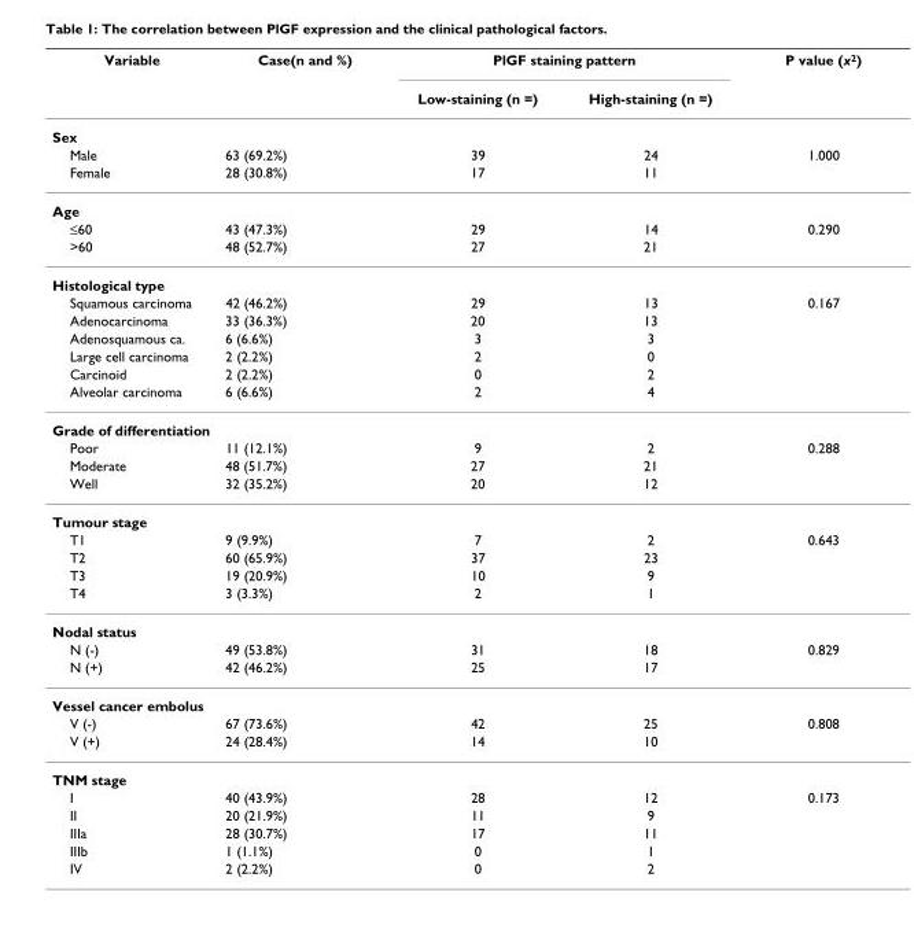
<table><thead><tr><td rowspan="2">Variable</td><td rowspan="2">Case(n and %)</td><td colspan="2">PlGF staining pattern</td><td rowspan="2">P value (x<sup>2</sup>)</td></tr><tr><td>Low-staining (n =)</td><td>High-staining (n =)</td></tr></thead><tbody><tr><td colspan="5">Sex</td></tr><tr><td>Male</td><td>63 (69.2%)</td><td>39</td><td>24</td><td>1.000</td></tr><tr><td>Female</td><td>28 (30.8%)</td><td>17</td><td>11</td><td></td></tr><tr><td colspan="5">Age</td></tr><tr><td>≤60</td><td>43 (47.3%)</td><td>29</td><td>14</td><td>0.290</td></tr><tr><td>&gt;60</td><td>48 (52.7%)</td><td>27</td><td>21</td><td></td></tr><tr><td colspan="5">Histological type</td></tr><tr><td>Squamous carcinoma</td><td>42 (46.2%)</td><td>29</td><td>13</td><td>0.167</td></tr><tr><td>Adenocarcinoma</td><td>33 (36.3%)</td><td>20</td><td>13</td><td></td></tr><tr><td>Adenosquamous ca.</td><td>6 (6.6%)</td><td>3</td><td>3</td><td></td></tr><tr><td>Large cell carcinoma</td><td>2 (2.2%)</td><td>2</td><td>0</td><td></td></tr><tr><td>Carcinoid</td><td>2 (2.2%)</td><td>0</td><td>2</td><td></td></tr><tr><td>Alveolar carcinoma</td><td>6 (6.6%)</td><td>2</td><td>4</td><td></td></tr><tr><td colspan="5">Grade of differentiation</td></tr><tr><td>Poor</td><td>11 (12.1%)</td><td>9</td><td>2</td><td>0.288</td></tr><tr><td>Moderate</td><td>48 (51.7%)</td><td>27</td><td>21</td><td></td></tr><tr><td>Well</td><td>32 (35.2%)</td><td>20</td><td>12</td><td></td></tr><tr><td colspan="5">Tumour stage</td></tr><tr><td>T1</td><td>9 (9.9%)</td><td>7</td><td>2</td><td>0.643</td></tr><tr><td>T2</td><td>60 (65.9%)</td><td>37</td><td>23</td><td></td></tr><tr><td>T3</td><td>19 (20.9%)</td><td>10</td><td>9</td><td></td></tr><tr><td>T4</td><td>3 (3.3%)</td><td>2</td><td>1</td><td></td></tr><tr><td colspan="5">Nodal status</td></tr><tr><td>N (-)</td><td>49 (53.8%)</td><td>31</td><td>18</td><td>0.829</td></tr><tr><td>N (+)</td><td>42 (46.2%)</td><td>25</td><td>17</td><td></td></tr><tr><td colspan="5">Vessel cancer embolus</td></tr><tr><td>V (-)</td><td>67 (73.6%)</td><td>42</td><td>25</td><td>0.808</td></tr><tr><td>V (+)</td><td>24 (28.4%)</td><td>14</td><td>10</td><td></td></tr><tr><td colspan="5">TNM stage</td></tr><tr><td>I</td><td>40 (43.9%)</td><td>28</td><td>12</td><td>0.173</td></tr><tr><td>II</td><td>20 (21.9%)</td><td>11</td><td>9</td><td></td></tr><tr><td>IIIa</td><td>28 (30.7%)</td><td>17</td><td>11</td><td></td></tr><tr><td>IIIb</td><td>1 (1.1%)</td><td>0</td><td>1</td><td></td></tr><tr><td>IV</td><td>2 (2.2%)</td><td>0</td><td>2</td><td></td></tr></tbody></table>